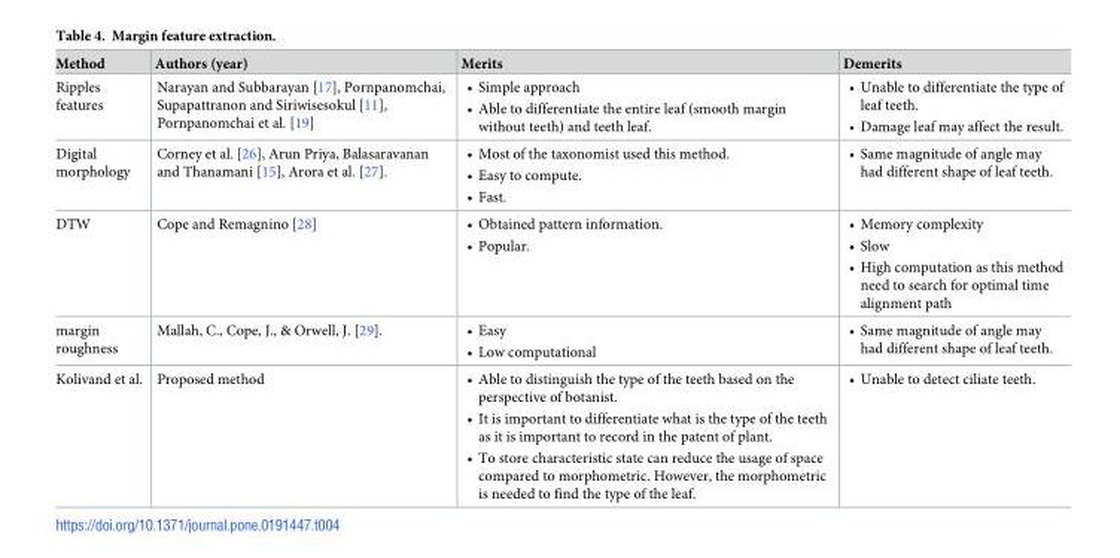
<table><thead><tr><td>Method</td><td>Authors (year)</td><td>Merits</td><td>Demerits</td></tr></thead><tbody><tr><td>Ripples features</td><td>Narayan and Subbarayan [17], Pornpanomchai, Supapattranon and Siriwisesokul [11], Pornpanomchai et al. [19]</td><td>• Simple approach • Able to differentiate the entire leaf (smooth margin without teeth) and teeth leaf.</td><td>• Unable to differentiate the type of leaf teeth. • Damage leaf may affect the result.</td></tr><tr><td>Digital morphology</td><td>Corney et al. [26], Arun Priya, Balasaravanan and Thanamani [15], Arora et al. [27].</td><td>• Most of the taxonomist used this method. • Easy to compute. • Fast.</td><td>• Same magnitude of angle may had different shape of leaf teeth.</td></tr><tr><td>DTW</td><td>Cope and Remagnino [28]</td><td>• Obtained pattern information. • Popular.</td><td>• Memory complexity • Slow • High computation as this method need to search for optimal time alignment path</td></tr><tr><td>margin roughness</td><td>Mallah, C., Cope, J., &amp; Orwell, J. [29].</td><td>• Easy • Low computational</td><td>• Same magnitude of angle may had different shape of leaf teeth.</td></tr><tr><td>Kolivand et al.</td><td>Proposed method</td><td>• Able to distinguish the type of the teeth based on the perspective of botanist. • It is important to differentiate what is the type of the teeth as it is important to record in the patent of plant. • To store characteristic state can reduce the usage of space compared to morphometric. However, the morphometric is needed to find the type of the leaf.</td><td>• Unable to detect ciliate teeth.</td></tr></tbody></table>